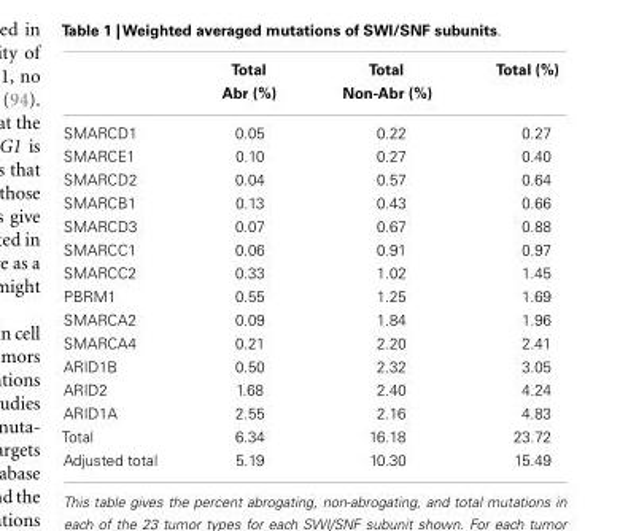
<table><thead><tr><td rowspan="2"></td><td rowspan="2">Total Abr (%)</td><td rowspan="2">Total Non-Abr (%)</td><td rowspan="2">Total (%)</td></tr><tr></tr></thead><tbody><tr><td>SMARCD1</td><td>0.05</td><td>0.22</td><td>0.27</td></tr><tr><td>SMARCE1</td><td>0.10</td><td>0.27</td><td>0.40</td></tr><tr><td>SMARCD2</td><td>0.04</td><td>0.57</td><td>0.64</td></tr><tr><td>SMARCB1</td><td>0.13</td><td>0.43</td><td>0.66</td></tr><tr><td>SMARCD3</td><td>0.07</td><td>0.67</td><td>0.88</td></tr><tr><td>SMARCC1</td><td>0.06</td><td>0.91</td><td>0.97</td></tr><tr><td>SMARCC2</td><td>0.33</td><td>1.02</td><td>1.45</td></tr><tr><td>PBRM1</td><td>0.55</td><td>1.25</td><td>1.69</td></tr><tr><td>SMARCA2</td><td>0.09</td><td>1.84</td><td>1.96</td></tr><tr><td>SMARCA4</td><td>0.21</td><td>2.20</td><td>2.41</td></tr><tr><td>ARID1B</td><td>0.50</td><td>2.32</td><td>3.05</td></tr><tr><td>ARID2</td><td>1.68</td><td>2.40</td><td>4.24</td></tr><tr><td>ARID1A</td><td>2.55</td><td>2.16</td><td>4.83</td></tr><tr><td>Total</td><td>6.34</td><td>16.18</td><td>23.72</td></tr><tr><td>Adjusted total</td><td>5.19</td><td>10.30</td><td>15.49</td></tr></tbody></table>